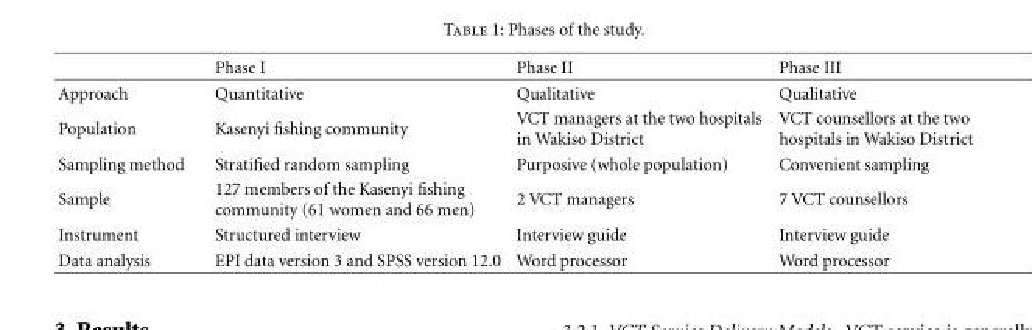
<table><thead><tr><td></td><td>Phase I</td><td>Phase II</td><td>Phase III</td></tr></thead><tbody><tr><td>Approach</td><td>Quantitative</td><td>Qualitative</td><td>Qualitative</td></tr><tr><td>Population</td><td>Kasenyi fishing community</td><td>VCT managers at the two hospitals in Wakiso District</td><td>VCT counsellors at the two hospitals in Wakiso District</td></tr><tr><td>Sampling method</td><td>Stratified random sampling</td><td>Purposive (whole population)</td><td>Convenient sampling</td></tr><tr><td>Sample</td><td>127 members of the Kasenyi fishing community (61 women and 66 men)</td><td>2 VCT managers</td><td>7 VCT counsellors</td></tr><tr><td>Instrument</td><td>Structured interview</td><td>Interview guide</td><td>Interview guide</td></tr><tr><td>Data analysis</td><td>EPI data version 3 and SPSS version 12.0</td><td>Word processor</td><td>Word processor</td></tr></tbody></table>